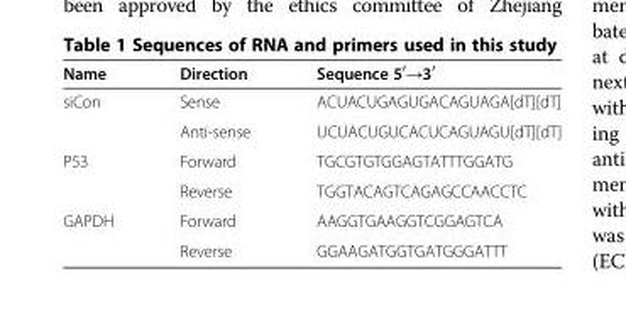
<table><thead><tr><td>Name</td><td>Direction</td><td>Sequence 5<sup>′</sup>→3<sup>′</sup></td></tr></thead><tbody><tr><td rowspan="2">siCon</td><td>Sense</td><td>ACUACUGAGUGACAGUAGA[dT][dT]</td></tr><tr><td>Anti-sense</td><td>UCUACUGUCACUCAGUAGU[dT][dT]</td></tr><tr><td rowspan="2">P53</td><td>Forward</td><td>TGCGTGTGGAGTATTTGGATG</td></tr><tr><td>Reverse</td><td>TGGTACAGTCAGAGCCAACCTC</td></tr><tr><td rowspan="2">GAPDH</td><td>Forward</td><td>AAGGTGAAGGTCGGAGTCA</td></tr><tr><td>Reverse</td><td>GGAAGATGGTGATGGGATTT</td></tr></tbody></table>